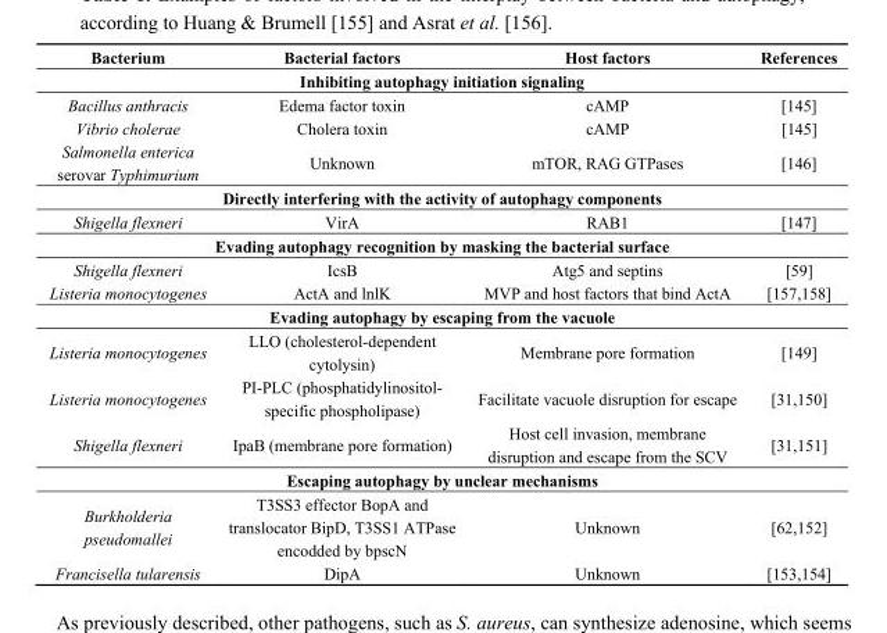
<table><thead><tr><td>Bacterium</td><td>Bacterial factors</td><td>Host factors</td><td>References</td></tr></thead><tbody><tr><td colspan="4">Inhibiting autophagy initiation signaling</td></tr><tr><td>Bacillus anthracis</td><td>Edema factor toxin</td><td>cAMP</td><td>[145]</td></tr><tr><td>Vibrio cholerae</td><td>Cholera toxin</td><td>cAMP</td><td>[145]</td></tr><tr><td>Salmonella enterica serovar Typhimurium</td><td>Unknown</td><td>mTOR, RAG GTPases</td><td>[146]</td></tr><tr><td colspan="4">Directly interfering with the activity of autophagy components</td></tr><tr><td>Shigella flexneri</td><td>VirA</td><td>RAB1</td><td>[147]</td></tr><tr><td colspan="4">Evading autophagy recognition by masking the bacterial surface</td></tr><tr><td>Shigella flexneri</td><td>IcsB</td><td>Atg5 and septins</td><td>[59]</td></tr><tr><td>Listeria monocytogenes</td><td>ActA and lnlK</td><td>MVP and host factors that bind ActA</td><td>[157,158]</td></tr><tr><td colspan="4">Evading autophagy by escaping from the vacuole</td></tr><tr><td>Listeria monocytogenes</td><td>LLO (cholesterol-dependent cytolysin)</td><td>Membrane pore formation</td><td>[149]</td></tr><tr><td>Listeria monocytogenes</td><td>PI-PLC (phosphatidylinositol- specific phospholipase)</td><td>Facilitate vacuole disruption for escape</td><td>[31,150]</td></tr><tr><td>Shigella flexneri</td><td>IpaB (membrane pore formation)</td><td>Host cell invasion, membrane disruption and escape from the SCV</td><td>[31,151]</td></tr><tr><td colspan="4">Escaping autophagy by unclear mechanisms</td></tr><tr><td>Burkholderia pseudomallei</td><td>T3SS3 effector BopA and translocator BipD, T3SS1 ATPase encodded by bpscN</td><td>Unknown</td><td>[62,152]</td></tr><tr><td>Francisella tularensis</td><td>DipA</td><td>Unknown</td><td>[153,154]</td></tr></tbody></table>